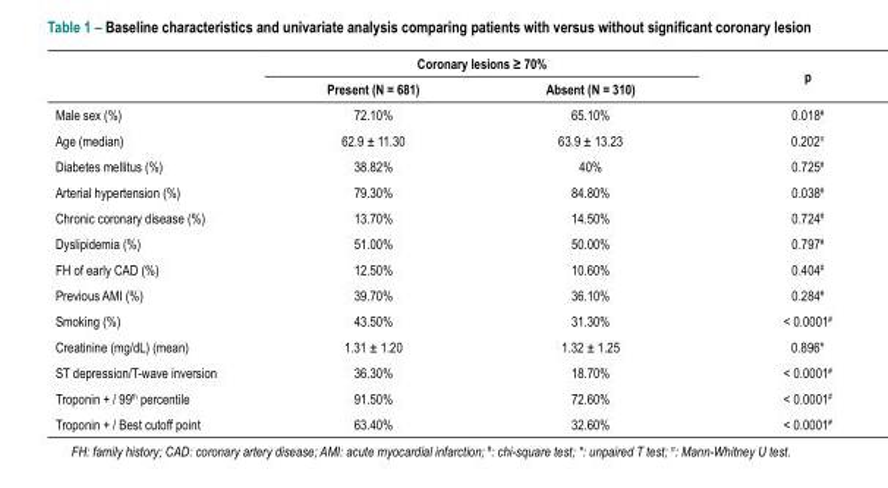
<table><thead><tr><td rowspan="2"></td><td colspan="2">Coronary lesions ≥ 70%</td><td rowspan="2">p</td></tr><tr><td>Present (N = 681)</td><td>Absent (N = 310)</td></tr></thead><tbody><tr><td>Male sex (%)</td><td>72.10%</td><td>65.10%</td><td>0.018<sup>#</sup></td></tr><tr><td>Age (median)</td><td>62.9 ± 11.30</td><td>63.9 ± 13.23</td><td>0.202<sup>π</sup></td></tr><tr><td>Diabetes mellitus (%)</td><td>38.82%</td><td>40%</td><td>0.725<sup>#</sup></td></tr><tr><td>Arterial hypertension (%)</td><td>79.30%</td><td>84.80%</td><td>0.038<sup>#</sup></td></tr><tr><td>Chronic coronary disease (%)</td><td>13.70%</td><td>14.50%</td><td>0.724<sup>#</sup></td></tr><tr><td>Dyslipidemia (%)</td><td>51.00%</td><td>50.00%</td><td>0.797<sup>#</sup></td></tr><tr><td>FH of early CAD (%)</td><td>12.50%</td><td>10.60%</td><td>0.404<sup>#</sup></td></tr><tr><td>Previous AMI (%)</td><td>39.70%</td><td>36.10%</td><td>0.284<sup>#</sup></td></tr><tr><td>Smoking (%)</td><td>43.50%</td><td>31.30%</td><td>&lt; 0.0001<sup>#</sup></td></tr><tr><td>Creatinine (mg/dL) (mean)</td><td>1.31 ± 1.20</td><td>1.32 ± 1.25</td><td>0.896*</td></tr><tr><td>ST depression/T-wave inversion</td><td>36.30%</td><td>18.70%</td><td>&lt; 0.0001<sup>#</sup></td></tr><tr><td>Troponin + / 99<sup>th</sup> percentile</td><td>91.50%</td><td>72.60%</td><td>&lt; 0.0001<sup>#</sup></td></tr><tr><td>Troponin + / Best cutoff point</td><td>63.40%</td><td>32.60%</td><td>&lt; 0.0001<sup>#</sup></td></tr></tbody></table>